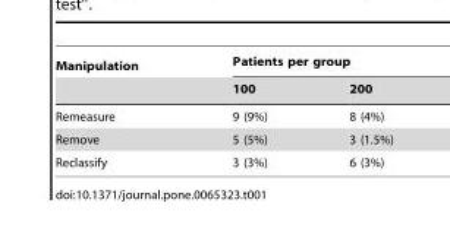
<table><thead><tr><td rowspan="2">Manipulation</td><td colspan="2">Patients per group</td></tr><tr><td>100</td><td>200</td></tr></thead><tbody><tr><td>Remeasure</td><td>9 (9%)</td><td>8 (4%)</td></tr><tr><td>Remove</td><td>5 (5%)</td><td>3 (1.5%)</td></tr><tr><td>Reclassify</td><td>3 (3%)</td><td>6 (3%)</td></tr></tbody></table>